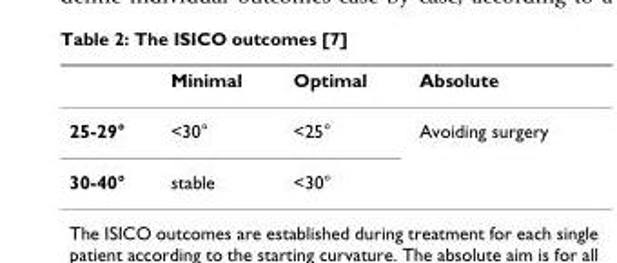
<table><thead><tr><td></td><td>Minimal</td><td>Optimal</td><td>Absolute</td></tr></thead><tbody><tr><td>25-29°</td><td>&lt;30°</td><td>&lt;25°</td><td>Avoiding surgery</td></tr><tr><td>30-40°</td><td>stable</td><td>&lt;30°</td><td></td></tr></tbody></table>